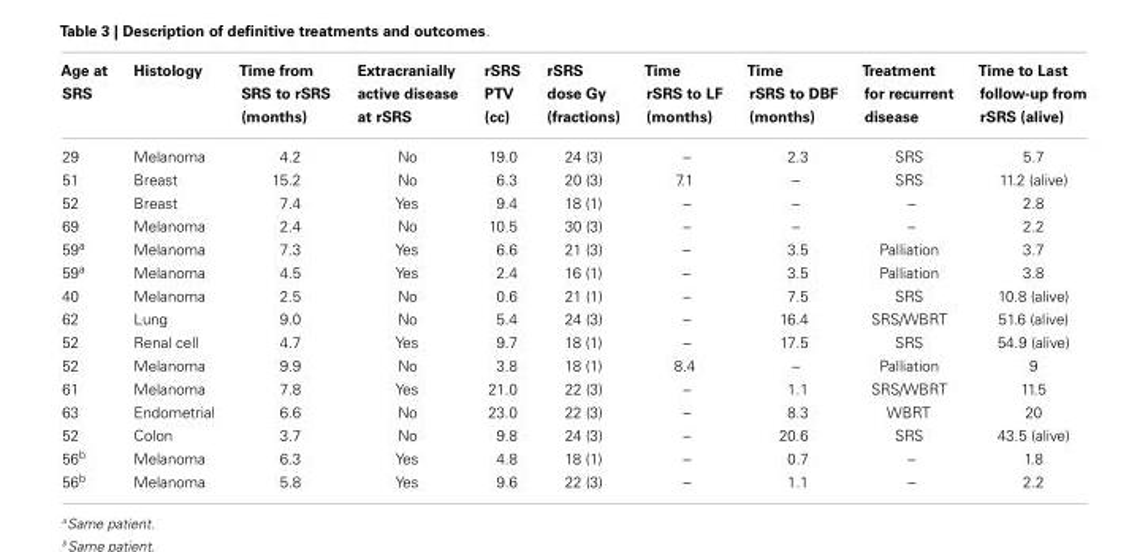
<table><thead><tr><td>Age at SRS</td><td>Histology</td><td>Time from SRS to rSRS (months)</td><td>Extracranially active disease at rSRS</td><td>rSRS PTV (cc)</td><td>rSRS dose Gy (fractions)</td><td>Time rSRS to LF (months)</td><td>Time rSRS to DBF (months)</td><td>Treatment for recurrent disease</td><td>Time to Last follow-up from rSRS (alive)</td></tr></thead><tbody><tr><td>29</td><td>Melanoma</td><td>4.2</td><td>No</td><td>19.0</td><td>24 (3)</td><td>–</td><td>2.3</td><td>SRS</td><td>5.7</td></tr><tr><td>51</td><td>Breast</td><td>15.2</td><td>No</td><td>6.3</td><td>20 (3)</td><td>7.1</td><td>–</td><td>SRS</td><td>11.2 (alive)</td></tr><tr><td>52</td><td>Breast</td><td>7.4</td><td>Yes</td><td>9.4</td><td>18 (1)</td><td>–</td><td>–</td><td>–</td><td>2.8</td></tr><tr><td>69</td><td>Melanoma</td><td>2.4</td><td>No</td><td>10.5</td><td>30 (3)</td><td>–</td><td>–</td><td>–</td><td>2.2</td></tr><tr><td>59<sup>a</sup></td><td>Melanoma</td><td>7.3</td><td>Yes</td><td>6.6</td><td>21 (3)</td><td>–</td><td>3.5</td><td>Palliation</td><td>3.7</td></tr><tr><td>59<sup>a</sup></td><td>Melanoma</td><td>4.5</td><td>Yes</td><td>2.4</td><td>16 (1)</td><td>–</td><td>3.5</td><td>Palliation</td><td>3.8</td></tr><tr><td>40</td><td>Melanoma</td><td>2.5</td><td>No</td><td>0.6</td><td>21 (1)</td><td>–</td><td>7.5</td><td>SRS</td><td>10.8 (alive)</td></tr><tr><td>62</td><td>Lung</td><td>9.0</td><td>No</td><td>5.4</td><td>24 (3)</td><td>–</td><td>16.4</td><td>SRS/WBRT</td><td>51.6 (alive)</td></tr><tr><td>52</td><td>Renal cell</td><td>4.7</td><td>Yes</td><td>9.7</td><td>18 (1)</td><td>–</td><td>17.5</td><td>SRS</td><td>54.9 (alive)</td></tr><tr><td>52</td><td>Melanoma</td><td>9.9</td><td>No</td><td>3.8</td><td>18 (1)</td><td>8.4</td><td>–</td><td>Palliation</td><td>9</td></tr><tr><td>61</td><td>Melanoma</td><td>7.8</td><td>Yes</td><td>21.0</td><td>22 (3)</td><td>–</td><td>1.1</td><td>SRS/WBRT</td><td>11.5</td></tr><tr><td>63</td><td>Endometrial</td><td>6.6</td><td>No</td><td>23.0</td><td>22 (3)</td><td>–</td><td>8.3</td><td>WBRT</td><td>20</td></tr><tr><td>52</td><td>Colon</td><td>3.7</td><td>No</td><td>9.8</td><td>24 (3)</td><td>–</td><td>20.6</td><td>SRS</td><td>43.5 (alive)</td></tr><tr><td>56<sup>b</sup></td><td>Melanoma</td><td>6.3</td><td>Yes</td><td>4.8</td><td>18 (1)</td><td>–</td><td>0.7</td><td>–</td><td>1.8</td></tr><tr><td>56<sup>b</sup></td><td>Melanoma</td><td>5.8</td><td>Yes</td><td>9.6</td><td>22 (3)</td><td>–</td><td>1.1</td><td>–</td><td>2.2</td></tr></tbody></table>